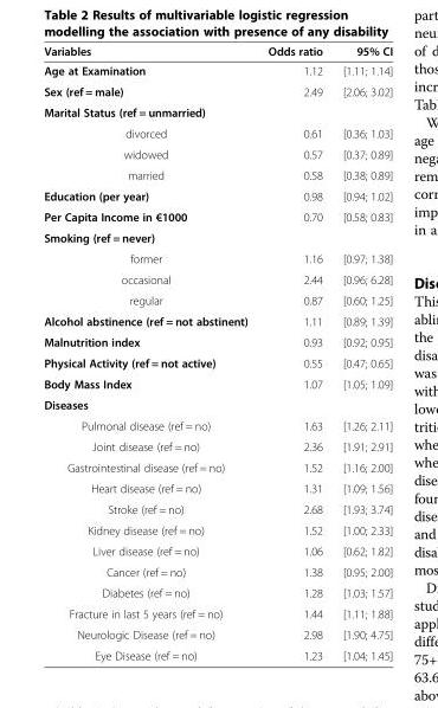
<table><thead><tr><td>Variables</td><td>Odds ratio</td><td>95% CI</td></tr></thead><tbody><tr><td>Age at Examination</td><td>1.12</td><td>[1.11; 1.14]</td></tr><tr><td>Sex (ref = male)</td><td>2.49</td><td>[2.06; 3.02]</td></tr><tr><td colspan="3">Marital Status (ref = unmarried)</td></tr><tr><td>divorced</td><td>0.61</td><td>[0.36; 1.03]</td></tr><tr><td>widowed</td><td>0.57</td><td>[0.37; 0.89]</td></tr><tr><td>married</td><td>0.58</td><td>[0.38; 0.89]</td></tr><tr><td>Education (per year)</td><td>0.98</td><td>[0.94; 1.02]</td></tr><tr><td>Per Capita Income in €1000</td><td>0.70</td><td>[0.58; 0.83]</td></tr><tr><td colspan="3">Smoking (ref = never)</td></tr><tr><td>former</td><td>1.16</td><td>[0.97; 1.38]</td></tr><tr><td>occasional</td><td>2.44</td><td>[0.96; 6.28]</td></tr><tr><td>regular</td><td>0.87</td><td>[0.60; 1.25]</td></tr><tr><td>Alcohol abstinence (ref = not abstinent)</td><td>1.11</td><td>[0.89; 1.39]</td></tr><tr><td>Malnutrition index</td><td>0.93</td><td>[0.92; 0.95]</td></tr><tr><td>Physical Activity (ref = not active)</td><td>0.55</td><td>[0.47; 0.65]</td></tr><tr><td>Body Mass Index</td><td>1.07</td><td>[1.05; 1.09]</td></tr><tr><td colspan="3">Diseases</td></tr><tr><td>Pulmonal disease (ref = no)</td><td>1.63</td><td>[1.26; 2.11]</td></tr><tr><td>Joint disease (ref = no)</td><td>2.36</td><td>[1.91; 2.91]</td></tr><tr><td>Gastrointestinal disease (ref = no)</td><td>1.52</td><td>[1.16; 2.00]</td></tr><tr><td>Heart disease (ref = no)</td><td>1.31</td><td>[1.09; 1.56]</td></tr><tr><td>Stroke (ref = no)</td><td>2.68</td><td>[1.93; 3.74]</td></tr><tr><td>Kidney disease (ref = no)</td><td>1.52</td><td>[1.00; 2.33]</td></tr><tr><td>Liver disease (ref = no)</td><td>1.06</td><td>[0.62; 1.82]</td></tr><tr><td>Cancer (ref = no)</td><td>1.38</td><td>[0.95; 2.00]</td></tr><tr><td>Diabetes (ref = no)</td><td>1.28</td><td>[1.03; 1.57]</td></tr><tr><td>Fracture in last 5 years (ref = no)</td><td>1.44</td><td>[1.11; 1.88]</td></tr><tr><td>Neurologic Disease (ref = no)</td><td>2.98</td><td>[1.90; 4.75]</td></tr><tr><td>Eye Disease (ref = no)</td><td>1.23</td><td>[1.04; 1.45]</td></tr></tbody></table>